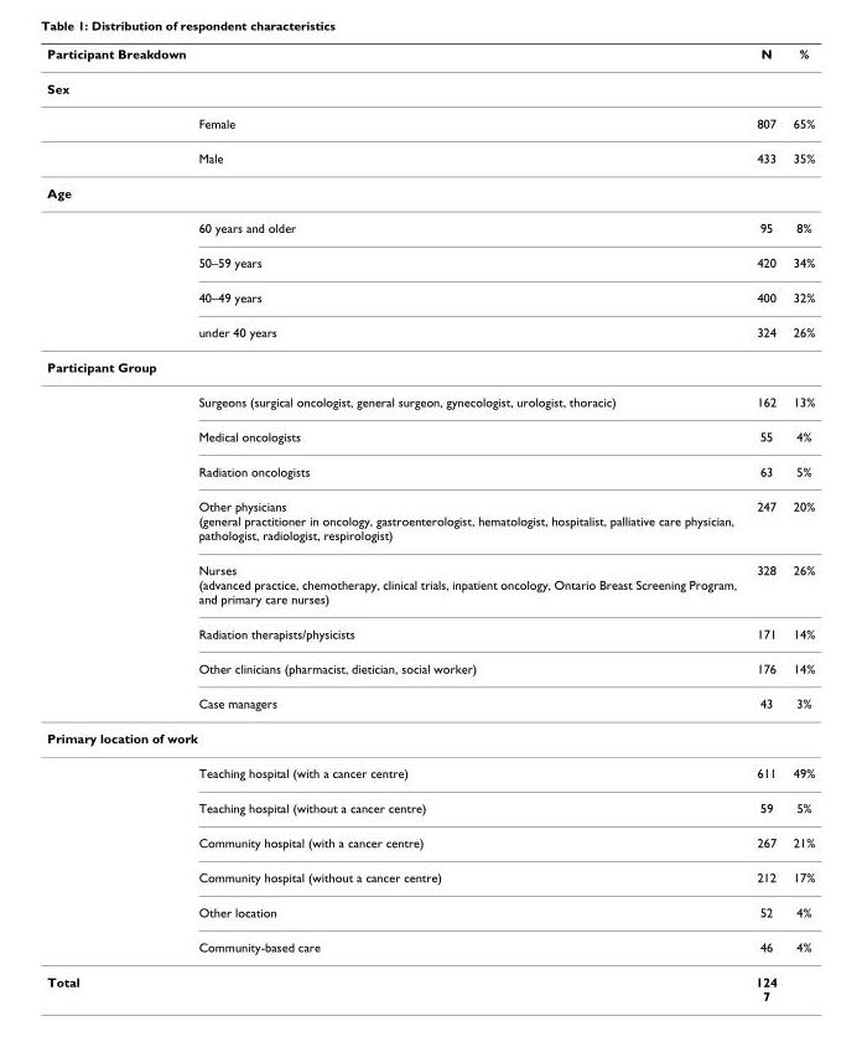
<table><thead><tr><td>Participant Breakdown</td><td></td><td>N</td><td>%</td></tr></thead><tbody><tr><td colspan="4">Sex</td></tr><tr><td></td><td>Female</td><td>807</td><td>65%</td></tr><tr><td></td><td>Male</td><td>433</td><td>35%</td></tr><tr><td colspan="4">Age</td></tr><tr><td></td><td>60 years and older</td><td>95</td><td>8%</td></tr><tr><td></td><td>50–59 years</td><td>420</td><td>34%</td></tr><tr><td></td><td>40–49 years</td><td>400</td><td>32%</td></tr><tr><td></td><td>under 40 years</td><td>324</td><td>26%</td></tr><tr><td colspan="4">Participant Group</td></tr><tr><td></td><td>Surgeons (surgical oncologist, general surgeon, gynecologist, urologist, thoracic)</td><td>162</td><td>13%</td></tr><tr><td></td><td>Medical oncologists</td><td>55</td><td>4%</td></tr><tr><td></td><td>Radiation oncologists</td><td>63</td><td>5%</td></tr><tr><td></td><td>Other physicians (general practitioner in oncology, gastroenterologist, hematologist, hospitalist, palliative care physician, pathologist, radiologist, respirologist)</td><td>247</td><td>20%</td></tr><tr><td></td><td>Nurses (advanced practice, chemotherapy, clinical trials, inpatient oncology, Ontario Breast Screening Program, and primary care nurses)</td><td>328</td><td>26%</td></tr><tr><td></td><td>Radiation therapists/physicists</td><td>171</td><td>14%</td></tr><tr><td></td><td>Other clinicians (pharmacist, dietician, social worker)</td><td>176</td><td>14%</td></tr><tr><td></td><td>Case managers</td><td>43</td><td>3%</td></tr><tr><td colspan="4">Primary location of work</td></tr><tr><td></td><td>Teaching hospital (with a cancer centre)</td><td>611</td><td>49%</td></tr><tr><td></td><td>Teaching hospital (without a cancer centre)</td><td>59</td><td>5%</td></tr><tr><td></td><td>Community hospital (with a cancer centre)</td><td>267</td><td>21%</td></tr><tr><td></td><td>Community hospital (without a cancer centre)</td><td>212</td><td>17%</td></tr><tr><td></td><td>Other location</td><td>52</td><td>4%</td></tr><tr><td></td><td>Community-based care</td><td>46</td><td>4%</td></tr><tr><td>Total</td><td></td><td>124</td><td></td></tr></tbody></table>